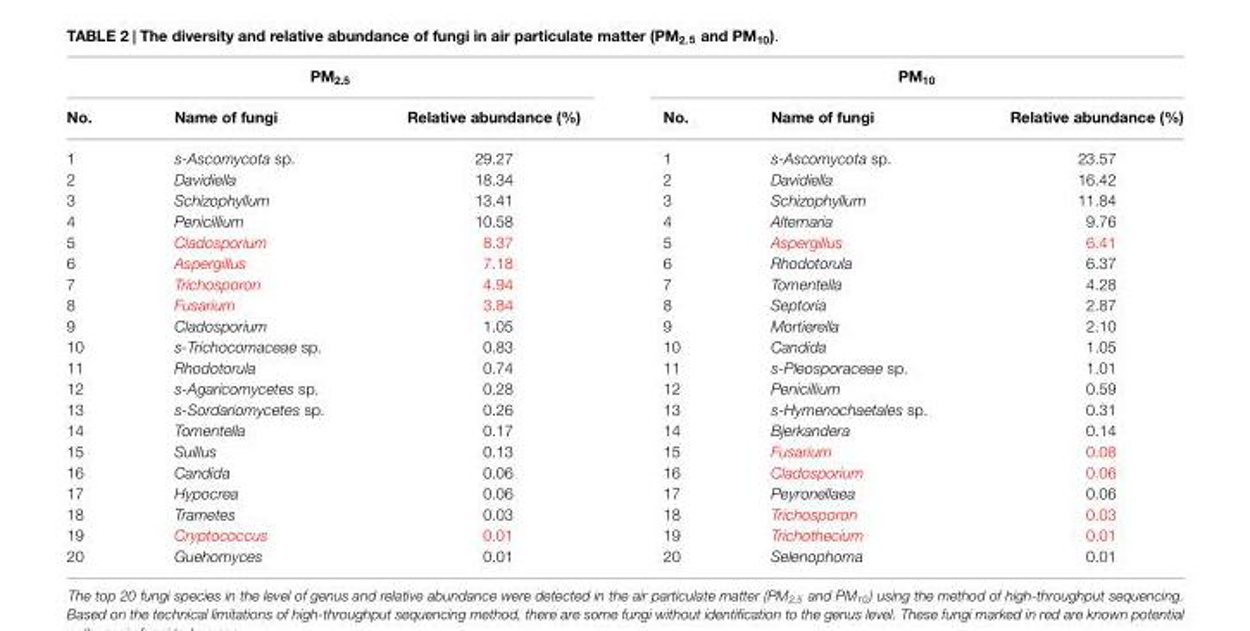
<table><thead><tr><td colspan="3">PM<sub>2.5</sub></td><td colspan="3">PM<sub>10</sub></td></tr><tr><td>No.</td><td>Name of fungi</td><td>Relative abundance (%)</td><td>No.</td><td>Name of fungi</td><td>Relative abundance (%)</td></tr></thead><tbody><tr><td>1</td><td>s-Ascomycota sp.</td><td>29.27</td><td>1</td><td>s-Ascomycota sp.</td><td>23.57</td></tr><tr><td>2</td><td>Davidiella</td><td>18.34</td><td>2</td><td>Davidiella</td><td>16.42</td></tr><tr><td>3</td><td>Schizophyllum</td><td>13.41</td><td>3</td><td>Schizophyllum</td><td>11.84</td></tr><tr><td>4</td><td>Penicillium</td><td>10.58</td><td>4</td><td>Alternaria</td><td>9.76</td></tr><tr><td>5</td><td>Cladosporium</td><td>8.37</td><td>5</td><td>Aspergillus</td><td>6.41</td></tr><tr><td>6</td><td>Aspergillus</td><td>7.18</td><td>6</td><td>Rhodotorula</td><td>6.37</td></tr><tr><td>7</td><td>Trichosporon</td><td>4.94</td><td>7</td><td>Tomentella</td><td>4.28</td></tr><tr><td>8</td><td>Fusarium</td><td>3.84</td><td>8</td><td>Septoria</td><td>2.87</td></tr><tr><td>9</td><td>Cladosporium</td><td>1.05</td><td>9</td><td>Mortierella</td><td>2.10</td></tr><tr><td>10</td><td>s-Trichocomaceae sp.</td><td>0.83</td><td>10</td><td>Candida</td><td>1.05</td></tr><tr><td>11</td><td>Rhodotorula</td><td>0.74</td><td>11</td><td>s-Pleosporaceae sp.</td><td>1.01</td></tr><tr><td>12</td><td>s-Agaricomycetes sp.</td><td>0.28</td><td>12</td><td>Penicillium</td><td>0.59</td></tr><tr><td>13</td><td>s-Sordariomycetes sp.</td><td>0.26</td><td>13</td><td>s-Hymenochaetales sp.</td><td>0.31</td></tr><tr><td>14</td><td>Tomentella</td><td>0.17</td><td>14</td><td>Bjerkandera</td><td>0.14</td></tr><tr><td>15</td><td>Suillus</td><td>0.13</td><td>15</td><td>Fusarium</td><td>0.08</td></tr><tr><td>16</td><td>Candida</td><td>0.06</td><td>16</td><td>Cladosporium</td><td>0.06</td></tr><tr><td>17</td><td>Hypocrea</td><td>0.06</td><td>17</td><td>Peyronellaea</td><td>0.06</td></tr><tr><td>18</td><td>Trametes</td><td>0.03</td><td>18</td><td>Trichosporon</td><td>0.03</td></tr><tr><td>19</td><td>Cryptococcus</td><td>0.01</td><td>19</td><td>Trichothecium</td><td>0.01</td></tr><tr><td>20</td><td>Guehomyces</td><td>0.01</td><td>20</td><td>Selenophoma</td><td>0.01</td></tr></tbody></table>